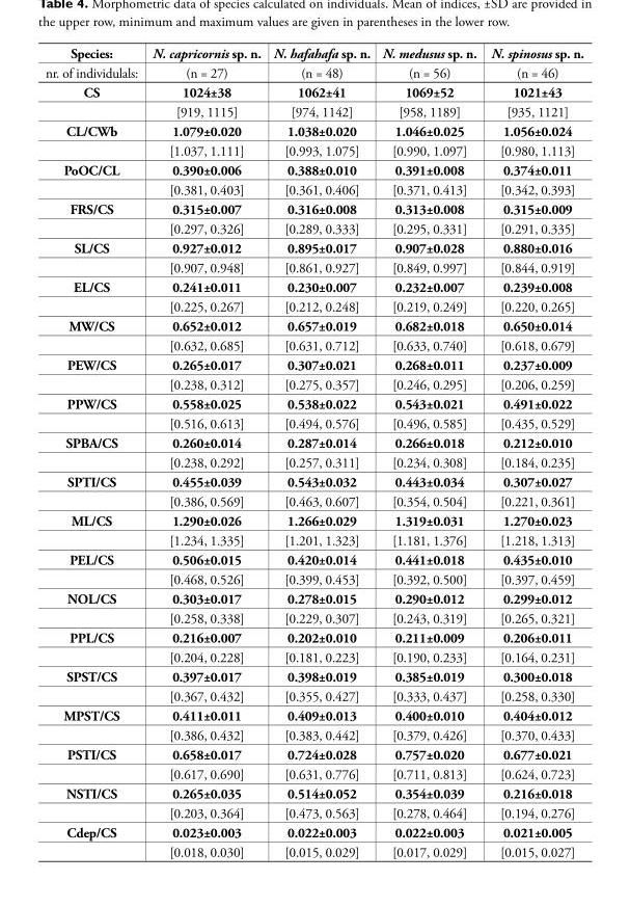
<table><thead><tr><td>Species:</td><td>N. capricornis sp. n.</td><td>N. hafahafa sp. n.</td><td>N. medusus sp. n.</td><td>N. spinosus sp. n.</td></tr></thead><tbody><tr><td>nr. of individulals:</td><td>(n = 27)</td><td>(n = 48)</td><td>(n = 56)</td><td>(n = 46)</td></tr><tr><td rowspan="2">CS</td><td>1024±38</td><td>1062±41</td><td>1069±52</td><td>1021±43</td></tr><tr><td>[919, 1115]</td><td>[974, 1142]</td><td>[958, 1189]</td><td>[935, 1121]</td></tr><tr><td rowspan="2">CL/CWb</td><td>1.079±0.020</td><td>1.038±0.020</td><td>1.046±0.025</td><td>1.056±0.024</td></tr><tr><td>[1.037, 1.111]</td><td>[0.993, 1.075]</td><td>[0.990, 1.097]</td><td>[0.980, 1.113]</td></tr><tr><td rowspan="2">PoOC/CL</td><td>0.390±0.006</td><td>0.388±0.010</td><td>0.391±0.008</td><td>0.374±0.011</td></tr><tr><td>[0.381, 0.403]</td><td>[0.361, 0.406]</td><td>[0.371, 0.413]</td><td>[0.342, 0.393]</td></tr><tr><td rowspan="2">FRS/CS</td><td>0.315±0.007</td><td>0.316±0.008</td><td>0.313±0.008</td><td>0.315±0.009</td></tr><tr><td>[0.297, 0.326]</td><td>[0.289, 0.333]</td><td>[0.295, 0.331]</td><td>[0.291, 0.335]</td></tr><tr><td rowspan="2">SL/CS</td><td>0.927±0.012</td><td>0.895±0.017</td><td>0.907±0.028</td><td>0.880±0.016</td></tr><tr><td>[0.907, 0.948]</td><td>[0.861, 0.927]</td><td>[0.849, 0.997]</td><td>[0.844, 0.919]</td></tr><tr><td rowspan="2">EL/CS</td><td>0.241±0.011</td><td>0.230±0.007</td><td>0.232±0.007</td><td>0.239±0.008</td></tr><tr><td>[0.225, 0.267]</td><td>[0.212, 0.248]</td><td>[0.219, 0.249]</td><td>[0.220, 0.265]</td></tr><tr><td rowspan="2">MW/CS</td><td>0.652±0.012</td><td>0.657±0.019</td><td>0.682±0.018</td><td>0.650±0.014</td></tr><tr><td>[0.632, 0.685]</td><td>[0.631, 0.712]</td><td>[0.633, 0.740]</td><td>[0.618, 0.679]</td></tr><tr><td rowspan="2">PEW/CS</td><td>0.265±0.017</td><td>0.307±0.021</td><td>0.268±0.011</td><td>0.237±0.009</td></tr><tr><td>[0.238, 0.312]</td><td>[0.275, 0.357]</td><td>[0.246, 0.295]</td><td>[0.206, 0.259]</td></tr><tr><td rowspan="2">PPW/CS</td><td>0.558±0.025</td><td>0.538±0.022</td><td>0.543±0.021</td><td>0.491±0.022</td></tr><tr><td>[0.516, 0.613]</td><td>[0.494, 0.576]</td><td>[0.496, 0.585]</td><td>[0.435, 0.529]</td></tr><tr><td rowspan="2">SPBA/CS</td><td>0.260±0.014</td><td>0.287±0.014</td><td>0.266±0.018</td><td>0.212±0.010</td></tr><tr><td>[0.238, 0.292]</td><td>[0.257, 0.311]</td><td>[0.234, 0.308]</td><td>[0.184, 0.235]</td></tr><tr><td rowspan="2">SPTI/CS</td><td>0.455±0.039</td><td>0.543±0.032</td><td>0.443±0.034</td><td>0.307±0.027</td></tr><tr><td>[0.386, 0.569]</td><td>[0.463, 0.607]</td><td>[0.354, 0.504]</td><td>[0.221, 0.361]</td></tr><tr><td rowspan="2">ML/CS</td><td>1.290±0.026</td><td>1.266±0.029</td><td>1.319±0.031</td><td>1.270±0.023</td></tr><tr><td>[1.234, 1.335]</td><td>[1.201, 1.323]</td><td>[1.181, 1.376]</td><td>[1.218, 1.313]</td></tr><tr><td rowspan="2">PEL/CS</td><td>0.506±0.015</td><td>0.420±0.014</td><td>0.441±0.018</td><td>0.435±0.010</td></tr><tr><td>[0.468, 0.526]</td><td>[0.399, 0.453]</td><td>[0.392, 0.500]</td><td>[0.397, 0.459]</td></tr><tr><td rowspan="2">NOL/CS</td><td>0.303±0.017</td><td>0.278±0.015</td><td>0.290±0.012</td><td>0.299±0.012</td></tr><tr><td>[0.258, 0.338]</td><td>[0.229, 0.307]</td><td>[0.243, 0.319]</td><td>[0.265, 0.321]</td></tr><tr><td rowspan="2">PPL/CS</td><td>0.216±0.007</td><td>0.202±0.010</td><td>0.211±0.009</td><td>0.206±0.011</td></tr><tr><td>[0.204, 0.228]</td><td>[0.181, 0.223]</td><td>[0.190, 0.233]</td><td>[0.164, 0.231]</td></tr><tr><td rowspan="2">SPST/CS</td><td>0.397±0.017</td><td>0.398±0.019</td><td>0.385±0.019</td><td>0.300±0.018</td></tr><tr><td>[0.367, 0.432]</td><td>[0.355, 0.427]</td><td>[0.333, 0.437]</td><td>[0.258, 0.330]</td></tr><tr><td rowspan="2">MPST/CS</td><td>0.411±0.011</td><td>0.409±0.013</td><td>0.400±0.010</td><td>0.404±0.012</td></tr><tr><td>[0.386, 0.432]</td><td>[0.383, 0.442]</td><td>[0.379, 0.426]</td><td>[0.370, 0.433]</td></tr><tr><td rowspan="2">PSTI/CS</td><td>0.658±0.017</td><td>0.724±0.028</td><td>0.757±0.020</td><td>0.677±0.021</td></tr><tr><td>[0.617, 0.690]</td><td>[0.631, 0.776]</td><td>[0.711, 0.813]</td><td>[0.624, 0.723]</td></tr><tr><td rowspan="2">NSTI/CS</td><td>0.265±0.035</td><td>0.514±0.052</td><td>0.354±0.039</td><td>0.216±0.018</td></tr><tr><td>[0.203, 0.364]</td><td>[0.473, 0.563]</td><td>[0.278, 0.464]</td><td>[0.194, 0.276]</td></tr><tr><td rowspan="2">Cdep/CS</td><td>0.023±0.003</td><td>0.022±0.003</td><td>0.022±0.003</td><td>0.021±0.005</td></tr><tr><td>[0.018, 0.030]</td><td>[0.015, 0.029]</td><td>[0.017, 0.029]</td><td>[0.015, 0.027]</td></tr></tbody></table>